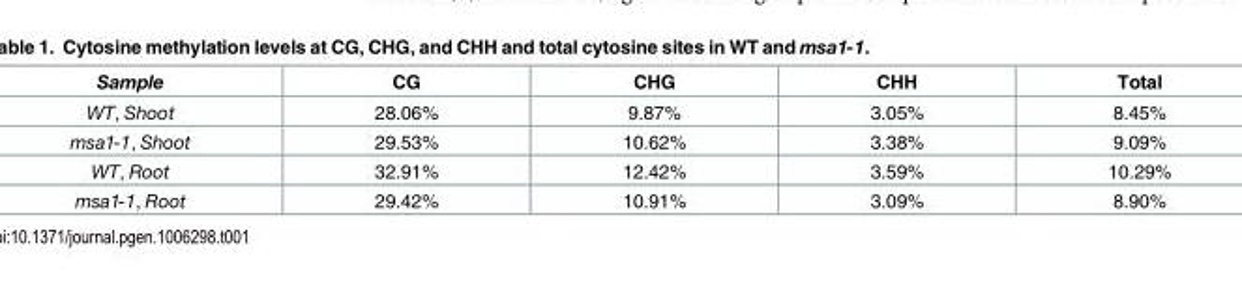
<table><thead><tr><td>Sample</td><td>CG</td><td>CHG</td><td>CHH</td><td>Total</td></tr></thead><tbody><tr><td>WT, Shoot</td><td>28.06%</td><td>9.87%</td><td>3.05%</td><td>8.45%</td></tr><tr><td>msa1-1, Shoot</td><td>29.53%</td><td>10.62%</td><td>3.38%</td><td>9.09%</td></tr><tr><td>WT, Root</td><td>32.91%</td><td>12.42%</td><td>3.59%</td><td>10.29%</td></tr><tr><td>msa1-1, Root</td><td>29.42%</td><td>10.91%</td><td>3.09%</td><td>8.90%</td></tr></tbody></table>